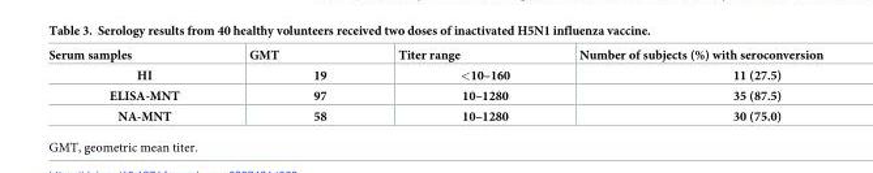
<table><thead><tr><td>Serum samples</td><td>GMT</td><td>Titer range</td><td>Number of subjects (%) with seroconversion</td></tr></thead><tbody><tr><td>HI</td><td>19</td><td>&lt;10–160</td><td>11 (27.5)</td></tr><tr><td>ELISA-MNT</td><td>97</td><td>10–1280</td><td>35 (87.5)</td></tr><tr><td>NA-MNT</td><td>58</td><td>10–1280</td><td>30 (75.0)</td></tr></tbody></table>